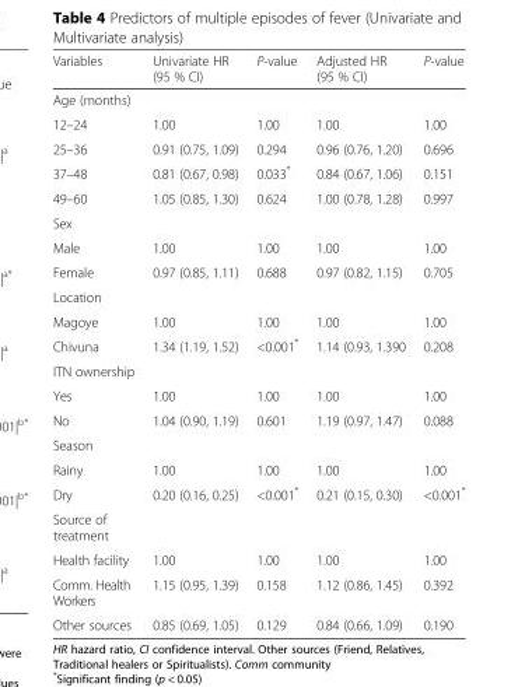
<table><thead><tr><td>Variables</td><td>Univariate HR (95 % CI)</td><td>P-value</td><td>Adjusted HR (95 % CI)</td><td>P-value</td></tr></thead><tbody><tr><td colspan="5">Age (months)</td></tr><tr><td>12–24</td><td>1.00</td><td>1.00</td><td>1.00</td><td>1.00</td></tr><tr><td>25–36</td><td>0.91 (0.75, 1.09)</td><td>0.294</td><td>0.96 (0.76, 1.20)</td><td>0.696</td></tr><tr><td>37–48</td><td>0.81 (0.67, 0.98)</td><td>0.033*</td><td>0.84 (0.67, 1.06)</td><td>0.151</td></tr><tr><td>49–60</td><td>1.05 (0.85, 1.30)</td><td>0.624</td><td>1.00 (0.78, 1.28)</td><td>0.997</td></tr><tr><td colspan="5">Sex</td></tr><tr><td>Male</td><td>1.00</td><td>1.00</td><td>1.00</td><td>1.00</td></tr><tr><td>Female</td><td>0.97 (0.85, 1.11)</td><td>0.688</td><td>0.97 (0.82, 1.15)</td><td>0.705</td></tr><tr><td colspan="5">Location</td></tr><tr><td>Magoye</td><td>1.00</td><td>1.00</td><td>1.00</td><td>1.00</td></tr><tr><td>Chivuna</td><td>1.34 (1.19, 1.52)</td><td>&lt;0.001*</td><td>1.14 (0.93, 1.390</td><td>0.208</td></tr><tr><td colspan="5">ITN ownership</td></tr><tr><td>Yes</td><td>1.00</td><td>1.00</td><td>1.00</td><td>1.00</td></tr><tr><td>No</td><td>1.04 (0.90, 1.19)</td><td>0.601</td><td>1.19 (0.97, 1.47)</td><td>0.088</td></tr><tr><td colspan="5">Season</td></tr><tr><td>Rainy</td><td>1.00</td><td>1.00</td><td>1.00</td><td>1.00</td></tr><tr><td>Dry</td><td>0.20 (0.16, 0.25)</td><td>&lt;0.001*</td><td>0.21 (0.15, 0.30)</td><td>&lt;0.001*</td></tr><tr><td colspan="5">Source of treatment</td></tr><tr><td>Health facility</td><td>1.00</td><td>1.00</td><td>1.00</td><td>1.00</td></tr><tr><td>Comm. Health Workers</td><td>1.15 (0.95, 1.39)</td><td>0.158</td><td>1.12 (0.86, 1.45)</td><td>0.392</td></tr><tr><td>Other sources</td><td>0.85 (0.69, 1.05)</td><td>0.129</td><td>0.84 (0.66, 1.09)</td><td>0.190</td></tr></tbody></table>